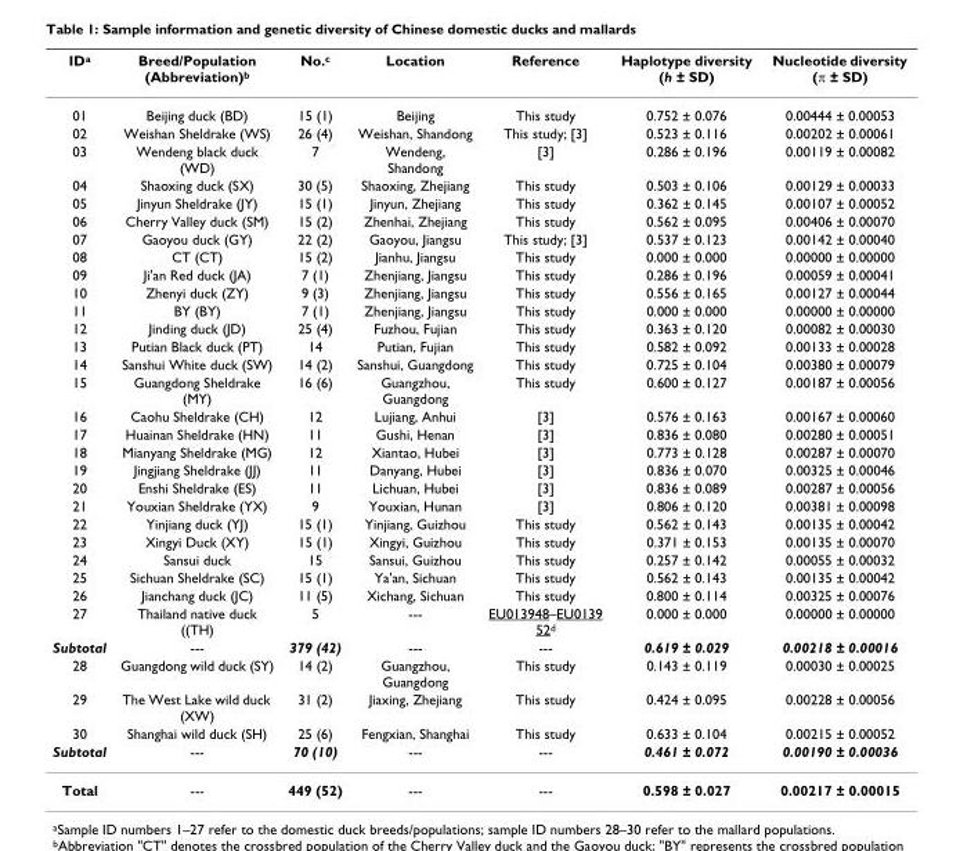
<table><thead><tr><td>ID<sup>a</sup></td><td>Breed/Population (Abbreviation)<sup>b</sup></td><td>No.<sup>c</sup></td><td>Location</td><td>Reference</td><td>Haplotype diversity (h ± SD)</td><td>Nucleotide diversity (π ± SD)</td></tr></thead><tbody><tr><td>01</td><td>Beijing duck (BD)</td><td>15 (1)</td><td>Beijing</td><td>This study</td><td>0.752 ± 0.076</td><td>0.00444 ± 0.00053</td></tr><tr><td>02</td><td>Weishan Sheldrake (WS)</td><td>26 (4)</td><td>Weishan, Shandong</td><td>This study; [3]</td><td>0.523 ± 0.116</td><td>0.00202 ± 0.00061</td></tr><tr><td>03</td><td>Wendeng black duck (WD)</td><td>7</td><td>Wendeng, Shandong</td><td>[3]</td><td>0.286 ± 0.196</td><td>0.00119 ± 0.00082</td></tr><tr><td>04</td><td>Shaoxing duck (SX)</td><td>30 (5)</td><td>Shaoxing, Zhejiang</td><td>This study</td><td>0.503 ± 0.106</td><td>0.00129 ± 0.00033</td></tr><tr><td>05</td><td>Jinyun Sheldrake (JY)</td><td>15 (1)</td><td>Jinyun, Zhejiang</td><td>This study</td><td>0.362 ± 0.145</td><td>0.00107 ± 0.00052</td></tr><tr><td>06</td><td>Cherry Valley duck (SM)</td><td>15 (2)</td><td>Zhenhai, Zhejiang</td><td>This study</td><td>0.562 ± 0.095</td><td>0.00406 ± 0.00070</td></tr><tr><td>07</td><td>Gaoyou duck (GY)</td><td>22 (2)</td><td>Gaoyou, Jiangsu</td><td>This study; [3]</td><td>0.537 ± 0.123</td><td>0.00142 ± 0.00040</td></tr><tr><td>08</td><td>CT (CT)</td><td>15 (2)</td><td>Jianhu, Jiangsu</td><td>This study</td><td>0.000 ± 0.000</td><td>0.00000 ± 0.00000</td></tr><tr><td>09</td><td>Ji&#x27;an Red duck (JA)</td><td>7 (1)</td><td>Zhenjiang, Jiangsu</td><td>This study</td><td>0.286 ± 0.196</td><td>0.00059 ± 0.00041</td></tr><tr><td>10</td><td>Zhenyi duck (ZY)</td><td>9 (3)</td><td>Zhenjiang, Jiangsu</td><td>This study</td><td>0.556 ± 0.165</td><td>0.00127 ± 0.00044</td></tr><tr><td>11</td><td>BY (BY)</td><td>7 (1)</td><td>Zhenjiang, Jiangsu</td><td>This study</td><td>0.000 ± 0.000</td><td>0.00000 ± 0.00000</td></tr><tr><td>12</td><td>Jinding duck (JD)</td><td>25 (4)</td><td>Fuzhou, Fujian</td><td>This study</td><td>0.363 ± 0.120</td><td>0.00082 ± 0.00030</td></tr><tr><td>13</td><td>Putian Black duck (PT)</td><td>14</td><td>Putian, Fujian</td><td>This study</td><td>0.582 ± 0.092</td><td>0.00133 ± 0.00028</td></tr><tr><td>14</td><td>Sanshui White duck (SW)</td><td>14 (2)</td><td>Sanshui, Guangdong</td><td>This study</td><td>0.725 ± 0.104</td><td>0.00380 ± 0.00079</td></tr><tr><td>15</td><td>Guangdong Sheldrake (MY)</td><td>16 (6)</td><td>Guangzhou, Guangdong</td><td>This study</td><td>0.600 ± 0.127</td><td>0.00187 ± 0.00056</td></tr><tr><td>16</td><td>Caohu Sheldrake (CH)</td><td>12</td><td>Lujiang, Anhui</td><td>[3]</td><td>0.576 ± 0.163</td><td>0.00167 ± 0.00060</td></tr><tr><td>17</td><td>Huainan Sheldrake (HN)</td><td>11</td><td>Gushi, Henan</td><td>[3]</td><td>0.836 ± 0.080</td><td>0.00280 ± 0.00051</td></tr><tr><td>18</td><td>Mianyang Sheldrake (MG)</td><td>12</td><td>Xiantao, Hubei</td><td>[3]</td><td>0.773 ± 0.128</td><td>0.00287 ± 0.00070</td></tr><tr><td>19</td><td>Jingjiang Sheldrake (JJ)</td><td>11</td><td>Danyang, Hubei</td><td>[3]</td><td>0.836 ± 0.070</td><td>0.00325 ± 0.00046</td></tr><tr><td>20</td><td>Enshi Sheldrake (ES)</td><td>11</td><td>Lichuan, Hubei</td><td>[3]</td><td>0.836 ± 0.089</td><td>0.00287 ± 0.00056</td></tr><tr><td>21</td><td>Youxian Sheldrake (YX)</td><td>9</td><td>Youxian, Hunan</td><td>[3]</td><td>0.806 ± 0.120</td><td>0.00381 ± 0.00098</td></tr><tr><td>22</td><td>Yinjiang duck (YJ)</td><td>15 (1)</td><td>Yinjiang, Guizhou</td><td>This study</td><td>0.562 ± 0.143</td><td>0.00135 ± 0.00042</td></tr><tr><td>23</td><td>Xingyi Duck (XY)</td><td>15 (1)</td><td>Xingyi, Guizhou</td><td>This study</td><td>0.371 ± 0.153</td><td>0.00135 ± 0.00070</td></tr><tr><td>24</td><td>Sansui duck</td><td>15</td><td>Sansui, Guizhou</td><td>This study</td><td>0.257 ± 0.142</td><td>0.00055 ± 0.00032</td></tr><tr><td>25</td><td>Sichuan Sheldrake (SC)</td><td>15 (1)</td><td>Ya&#x27;an, Sichuan</td><td>This study</td><td>0.562 ± 0.143</td><td>0.00135 ± 0.00042</td></tr><tr><td>26</td><td>Jianchang duck (JC)</td><td>11 (5)</td><td>Xichang, Sichuan</td><td>This study</td><td>0.800 ± 0.114</td><td>0.00325 ± 0.00076</td></tr><tr><td>27</td><td>Thailand native duck ((TH)</td><td>5</td><td>---</td><td>EU013948–EU0139 52<sup>d</sup></td><td>0.000 ± 0.000</td><td>0.00000 ± 0.00000</td></tr><tr><td>Subtotal</td><td>---</td><td>379 (42)</td><td>---</td><td>---</td><td>0.619 ± 0.029</td><td>0.00218 ± 0.00016</td></tr><tr><td>28</td><td>Guangdong wild duck (SY)</td><td>14 (2)</td><td>Guangzhou, Guangdong</td><td>This study</td><td>0.143 ± 0.119</td><td>0.00030 ± 0.00025</td></tr><tr><td>29</td><td>The West Lake wild duck (XW)</td><td>31 (2)</td><td>Jiaxing, Zhejiang</td><td>This study</td><td>0.424 ± 0.095</td><td>0.00228 ± 0.00056</td></tr><tr><td>30</td><td>Shanghai wild duck (SH)</td><td>25 (6)</td><td>Fengxian, Shanghai</td><td>This study</td><td>0.633 ± 0.104</td><td>0.00215 ± 0.00052</td></tr><tr><td>Subtotal</td><td>---</td><td>70 (10)</td><td>---</td><td>---</td><td>0.461 ± 0.072</td><td>0.00190 ± 0.00036</td></tr><tr><td>Total</td><td>---</td><td>449 (52)</td><td>---</td><td>---</td><td>0.598 ± 0.027</td><td>0.00217 ± 0.00015</td></tr></tbody></table>